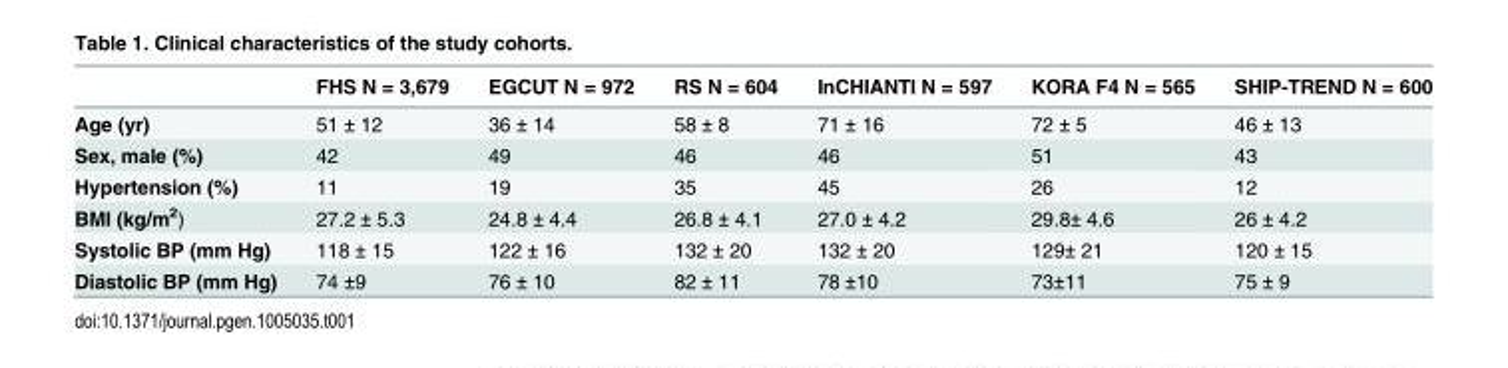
<table><thead><tr><td></td><td>FHS N = 3,679</td><td>EGCUT N = 972</td><td>RS N = 604</td><td>InCHIANTI N = 597</td><td>KORA F4 N = 565</td><td>SHIP-TREND N = 600</td></tr></thead><tbody><tr><td>Age (yr)</td><td>51 ± 12</td><td>36 ± 14</td><td>58 ± 8</td><td>71 ± 16</td><td>72 ± 5</td><td>46 ± 13</td></tr><tr><td>Sex, male (%)</td><td>42</td><td>49</td><td>46</td><td>46</td><td>51</td><td>43</td></tr><tr><td>Hypertension (%)</td><td>11</td><td>19</td><td>35</td><td>45</td><td>26</td><td>12</td></tr><tr><td>BMI (kg/m<sup>2</sup>)</td><td>27.2 ± 5.3</td><td>24.8 ± 4.4</td><td>26.8 ± 4.1</td><td>27.0 ± 4.2</td><td>29.8± 4.6</td><td>26 ± 4.2</td></tr><tr><td>Systolic BP (mm Hg)</td><td>118 ± 15</td><td>122 ± 16</td><td>132 ± 20</td><td>132 ± 20</td><td>129± 21</td><td>120 ± 15</td></tr><tr><td>Diastolic BP (mm Hg)</td><td>74 ±9</td><td>76 ± 10</td><td>82 ± 11</td><td>78 ±10</td><td>73±11</td><td>75 ± 9</td></tr></tbody></table>